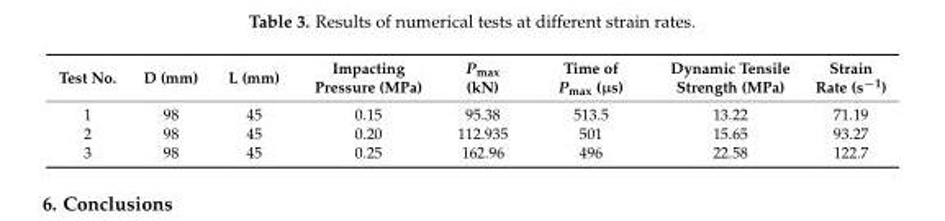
<table><thead><tr><td>Test No.</td><td>D (mm)</td><td>L (mm)</td><td>Impacting Pressure (MPa)</td><td>P<sub>max</sub> (kN)</td><td>Time of P<sub>max</sub> (µs)</td><td>Dynamic Tensile Strength (MPa)</td><td>Strain Rate (s<sup>−1</sup>)</td></tr></thead><tbody><tr><td>1</td><td>98</td><td>45</td><td>0.15</td><td>95.38</td><td>513.5</td><td>13.22</td><td>71.19</td></tr><tr><td>2</td><td>98</td><td>45</td><td>0.20</td><td>112.935</td><td>501</td><td>15.65</td><td>93.27</td></tr><tr><td>3</td><td>98</td><td>45</td><td>0.25</td><td>162.96</td><td>496</td><td>22.58</td><td>122.7</td></tr></tbody></table>